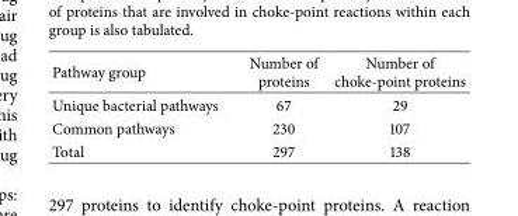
<table><thead><tr><td>Pathway group</td><td>Number of proteins</td><td>Number of choke-point proteins</td></tr></thead><tbody><tr><td>Unique bacterial pathways</td><td>67</td><td>29</td></tr><tr><td>Common pathways</td><td>230</td><td>107</td></tr><tr><td>Total</td><td>297</td><td>138</td></tr></tbody></table>